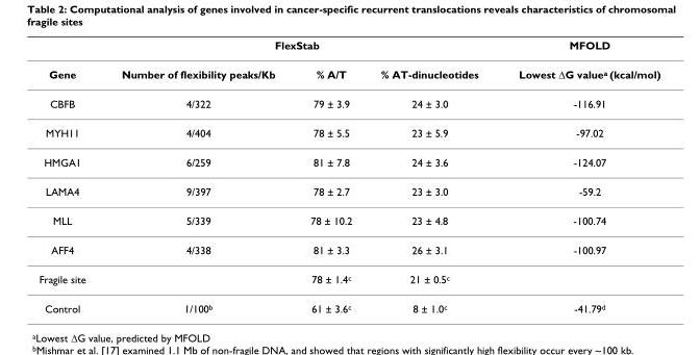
<table><thead><tr><td rowspan="2">Gene</td><td colspan="3">FlexStab</td><td rowspan="2">MFOLD Lowest ΔG value<sup>a</sup> (kcal/mol)</td></tr><tr><td>Number of flexibility peaks/Kb</td><td>% A/T</td><td>% AT-dinucleotides</td></tr></thead><tbody><tr><td>CBFB</td><td>4/322</td><td>79 ± 3.9</td><td>24 ± 3.0</td><td>-116.91</td></tr><tr><td>MYH11</td><td>4/404</td><td>78 ± 5.5</td><td>23 ± 5.9</td><td>-97.02</td></tr><tr><td>HMGA1</td><td>6/259</td><td>81 ± 7.8</td><td>24 ± 3.6</td><td>-124.07</td></tr><tr><td>LAMA4</td><td>9/397</td><td>78 ± 2.7</td><td>23 ± 3.0</td><td>-59.2</td></tr><tr><td>MLL</td><td>5/339</td><td>78 ± 10.2</td><td>23 ± 4.8</td><td>-100.74</td></tr><tr><td>AFF4</td><td>4/338</td><td>81 ± 3.3</td><td>26 ± 3.1</td><td>-100.97</td></tr><tr><td>Fragile site</td><td></td><td>78 ± 1.4<sup>c</sup></td><td>21 ± 0.5<sup>c</sup></td><td></td></tr><tr><td>Control</td><td>1/100<sup>b</sup></td><td>61 ± 3.6<sup>c</sup></td><td>8 ± 1.0<sup>c</sup></td><td>-41.79<sup>d</sup></td></tr></tbody></table>